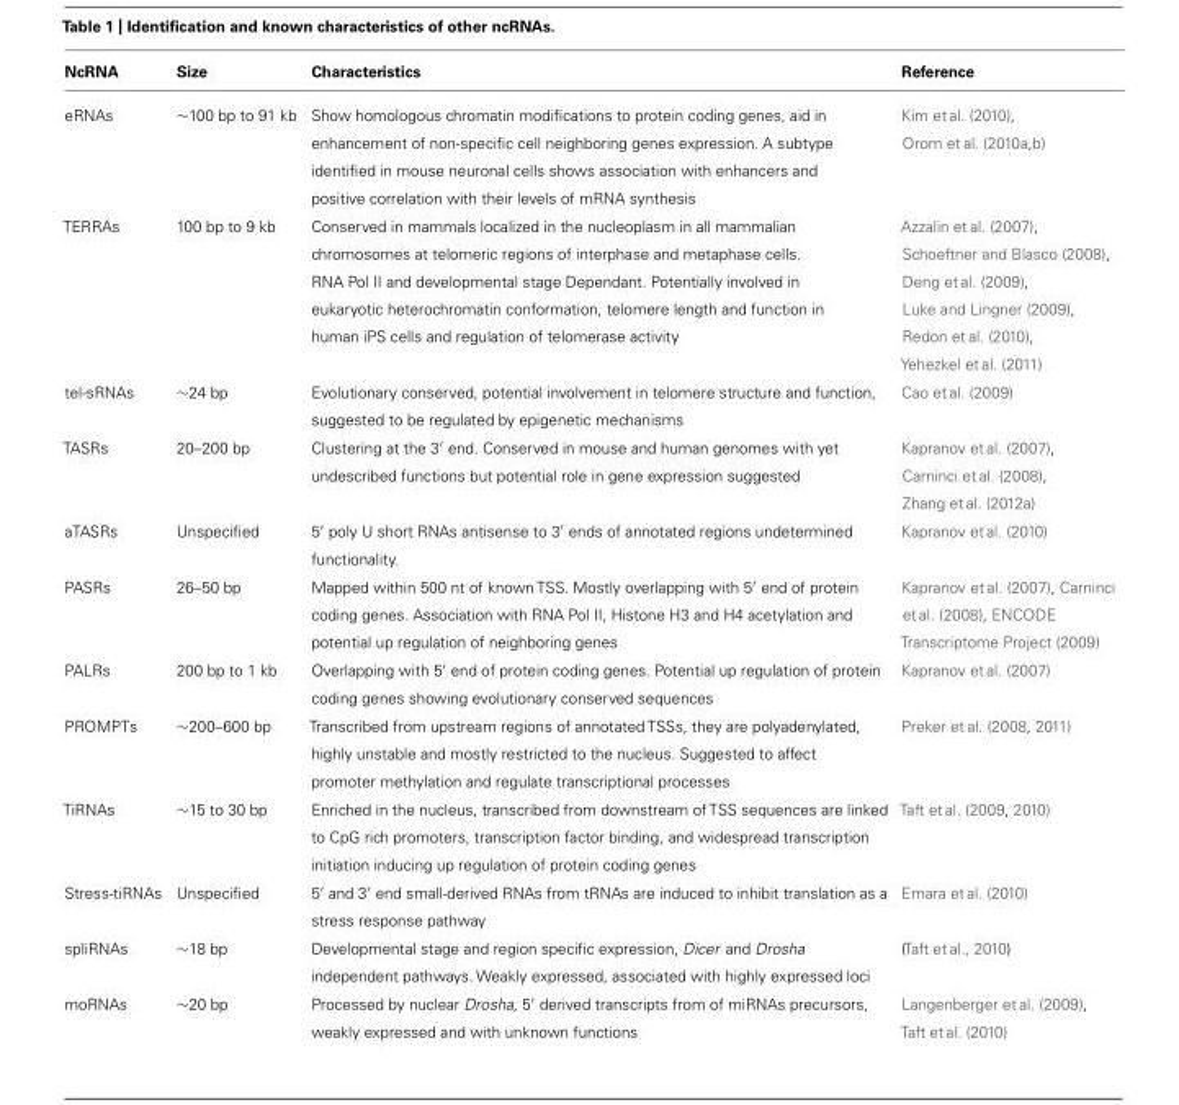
<table><thead><tr><td>NcRNA</td><td>Size</td><td>Characteristics</td><td>Reference</td></tr></thead><tbody><tr><td>eRNAs</td><td>∼100 bp to 91 kb</td><td>Show homologous chromatin modifications to protein coding genes, aid in enhancement of non-specific cell neighboring genes expression. A subtype identified in mouse neuronal cells shows association with enhancers and positive correlation with their levels of mRNA synthesis</td><td>Kim et al. (2010), Orom et al. (2010a,b)</td></tr><tr><td>TERRAs</td><td>100 bp to 9 kb</td><td>Conserved in mammals localized in the nucleoplasm in all mammalian chromosomes at telomeric regions of interphase and metaphase cells. RNA Pol II and developmental stage Dependant. Potentially involved in eukaryotic heterochromatin conformation, telomere length and function in human iPS cells and regulation of telomerase activity</td><td>Azzalin et al. (2007), Schoeftner and Blasco (2008), Deng et al. (2009), Luke and Lingner (2009), Redon et al. (2010), Yehezkel et al. (2011)</td></tr><tr><td>tel-sRNAs</td><td>∼24 bp</td><td>Evolutionary conserved, potential involvement in telomere structure and function, suggested to be regulated by epigenetic mechanisms</td><td>Cao et al. (2009)</td></tr><tr><td>TASRs</td><td>20–200 bp</td><td>Clustering at the 3′ end. Conserved in mouse and human genomes with yet undescribed functions but potential role in gene expression suggested</td><td>Kapranov et al. (2007), Carninci et al. (2008), Zhang et al. (2012a)</td></tr><tr><td>aTASRs</td><td>Unspecified</td><td>5′ poly U short RNAs antisense to 3′ ends of annotated regions undetermined functionality.</td><td>Kapranov et al. (2010)</td></tr><tr><td>PASRs</td><td>26–50 bp</td><td>Mapped within 500 nt of known TSS. Mostly overlapping with 5′ end of protein coding genes. Association with RNA Pol II, Histone H3 and H4 acetylation and potential up regulation of neighboring genes</td><td>Kapranov et al. (2007), Carninci et al. (2008), ENCODE Transcriptome Project (2009)</td></tr><tr><td>PALRs</td><td>200 bp to 1 kb</td><td>Overlapping with 5′ end of protein coding genes. Potential up regulation of protein coding genes showing evolutionary conserved sequences</td><td>Kapranov et al. (2007)</td></tr><tr><td>PROMPTs</td><td>∼200–600 bp</td><td>Transcribed from upstream regions of annotated TSSs, they are polyadenylated, highly unstable and mostly restricted to the nucleus. Suggested to affect promoter methylation and regulate transcriptional processes</td><td>Preker et al. (2008, 2011)</td></tr><tr><td>TiRNAs</td><td>∼15 to 30 bp</td><td>Enriched in the nucleus, transcribed from downstream of TSS sequences are linked to CpG rich promoters, transcription factor binding, and widespread transcription initiation inducing up regulation of protein coding genes</td><td>Taft et al. (2009, 2010)</td></tr><tr><td>Stress-tiRNAs</td><td>Unspecified</td><td>5′ and 3′ end small-derived RNAs from tRNAs are induced to inhibit translation as a stress response pathway</td><td>Emara et al. (2010)</td></tr><tr><td>spliRNAs</td><td>∼18 bp</td><td>Developmental stage and region specific expression, Dicer and Drosha independent pathways. Weakly expressed, associated with highly expressed loci</td><td>(Taft et al., 2010)</td></tr><tr><td>moRNAs</td><td>∼20 bp</td><td>Processed by nuclear Drosha, 5′ derived transcripts from of miRNAs precursors, weakly expressed and with unknown functions</td><td>Langenberger et al. (2009), Taft et al. (2010)</td></tr></tbody></table>